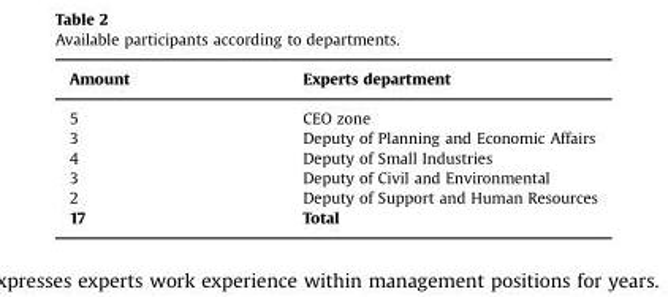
<table><thead><tr><td>Amount</td><td>Experts department</td></tr></thead><tbody><tr><td>5</td><td>CEO zone</td></tr><tr><td>3</td><td>Deputy of Planning and Economic Affairs</td></tr><tr><td>4</td><td>Deputy of Small Industries</td></tr><tr><td>3</td><td>Deputy of Civil and Environmental</td></tr><tr><td>2</td><td>Deputy of Support and Human Resources</td></tr><tr><td>17</td><td>Total</td></tr></tbody></table>